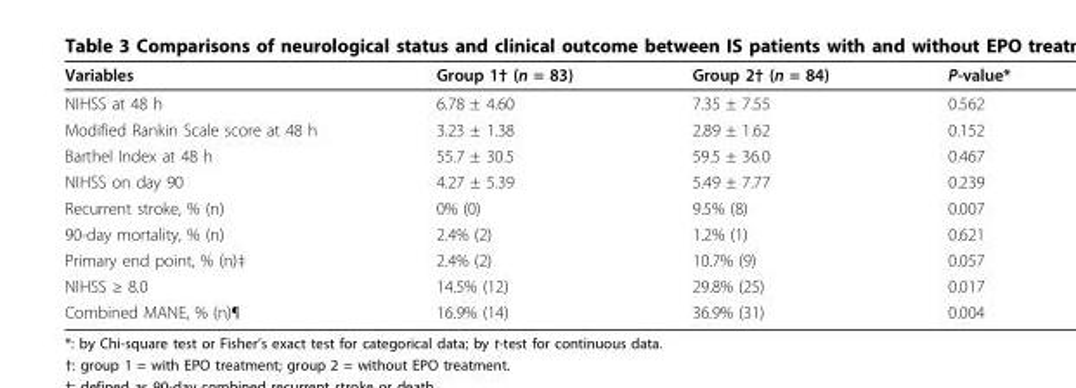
<table><thead><tr><td>Variables</td><td>Group 1† (n = 83)</td><td>Group 2† (n = 84)</td><td>P-value*</td></tr></thead><tbody><tr><td>NIHSS at 48 h</td><td>6.78 ± 4.60</td><td>7.35 ± 7.55</td><td>0.562</td></tr><tr><td>Modified Rankin Scale score at 48 h</td><td>3.23 ± 1.38</td><td>2.89 ± 1.62</td><td>0.152</td></tr><tr><td>Barthel Index at 48 h</td><td>55.7 ± 30.5</td><td>59.5 ± 36.0</td><td>0.467</td></tr><tr><td>NIHSS on day 90</td><td>4.27 ± 5.39</td><td>5.49 ± 7.77</td><td>0.239</td></tr><tr><td>Recurrent stroke, % (n)</td><td>0% (0)</td><td>9.5% (8)</td><td>0.007</td></tr><tr><td>90-day mortality, % (n)</td><td>2.4% (2)</td><td>1.2% (1)</td><td>0.621</td></tr><tr><td>Primary end point, % (n)‡</td><td>2.4% (2)</td><td>10.7% (9)</td><td>0.057</td></tr><tr><td>NIHSS ≥ 8.0</td><td>14.5% (12)</td><td>29.8% (25)</td><td>0.017</td></tr><tr><td>Combined MANE, % (n)¶</td><td>16.9% (14)</td><td>36.9% (31)</td><td>0.004</td></tr></tbody></table>